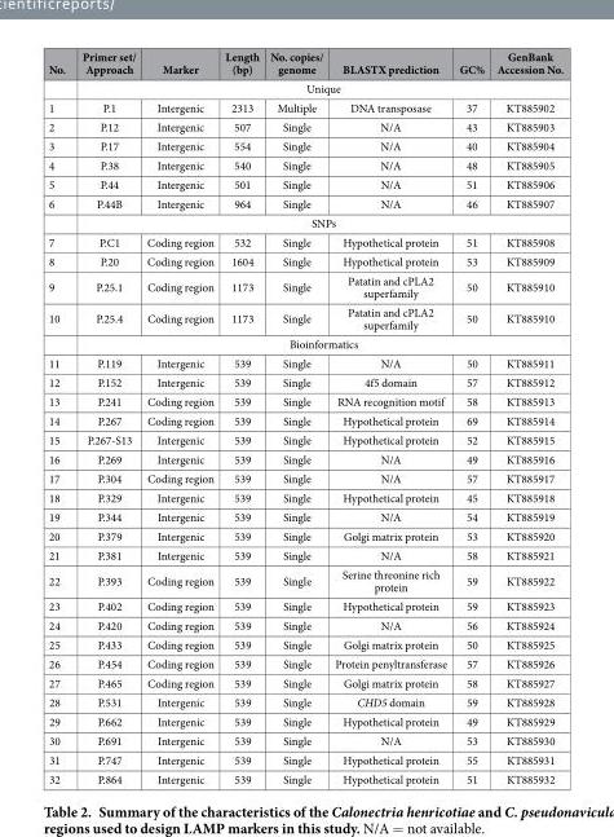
<table><thead><tr><td>No.</td><td>Primer set/ Approach</td><td>Marker</td><td>Length (bp)</td><td>No. copies/ genome</td><td>BLASTX prediction</td><td>GC%</td><td>GenBank Accession No.</td></tr></thead><tbody><tr><td></td><td colspan="7">Unique</td></tr><tr><td>1</td><td>P.1</td><td>Intergenic</td><td>2313</td><td>Multiple</td><td>DNA transposase</td><td>37</td><td>KT885902</td></tr><tr><td>2</td><td>P.12</td><td>Intergenic</td><td>507</td><td>Single</td><td>N/A</td><td>43</td><td>KT885903</td></tr><tr><td>3</td><td>P.17</td><td>Intergenic</td><td>554</td><td>Single</td><td>N/A</td><td>40</td><td>KT885904</td></tr><tr><td>4</td><td>P.38</td><td>Intergenic</td><td>540</td><td>Single</td><td>N/A</td><td>48</td><td>KT885905</td></tr><tr><td>5</td><td>P.44</td><td>Intergenic</td><td>501</td><td>Single</td><td>N/A</td><td>51</td><td>KT885906</td></tr><tr><td rowspan="2">6</td><td>P.44B</td><td>Intergenic</td><td>964</td><td>Single</td><td>N/A</td><td>46</td><td>KT885907</td></tr><tr><td colspan="7">SNPs</td></tr><tr><td>7</td><td>P.C1</td><td>Coding region</td><td>532</td><td>Single</td><td>Hypothetical protein</td><td>51</td><td>KT885908</td></tr><tr><td>8</td><td>P.20</td><td>Coding region</td><td>1604</td><td>Single</td><td>Hypothetical protein</td><td>53</td><td>KT885909</td></tr><tr><td>9</td><td>P.25.1</td><td>Coding region</td><td>1173</td><td>Single</td><td>Patatin and cPLA2 superfamily</td><td>50</td><td>KT885910</td></tr><tr><td rowspan="2">10</td><td>P.25.4</td><td>Coding region</td><td>1173</td><td>Single</td><td>Patatin and cPLA2 superfamily</td><td>50</td><td>KT885910</td></tr><tr><td colspan="7">Bioinformatics</td></tr><tr><td>11</td><td>P.119</td><td>Intergenic</td><td>539</td><td>Single</td><td>N/A</td><td>50</td><td>KT885911</td></tr><tr><td>12</td><td>P.152</td><td>Intergenic</td><td>539</td><td>Single</td><td>4f5 domain</td><td>57</td><td>KT885912</td></tr><tr><td>13</td><td>P.241</td><td>Coding region</td><td>539</td><td>Single</td><td>RNA recognition motif</td><td>58</td><td>KT885913</td></tr><tr><td>14</td><td>P.267</td><td>Coding region</td><td>539</td><td>Single</td><td>Hypothetical protein</td><td>69</td><td>KT885914</td></tr><tr><td>15</td><td>P.267-S13</td><td>Intergenic</td><td>539</td><td>Single</td><td>Hypothetical protein</td><td>52</td><td>KT885915</td></tr><tr><td>16</td><td>P.269</td><td>Intergenic</td><td>539</td><td>Single</td><td>N/A</td><td>49</td><td>KT885916</td></tr><tr><td>17</td><td>P.304</td><td>Coding region</td><td>539</td><td>Single</td><td>N/A</td><td>57</td><td>KT885917</td></tr><tr><td>18</td><td>P.329</td><td>Intergenic</td><td>539</td><td>Single</td><td>Hypothetical protein</td><td>45</td><td>KT885918</td></tr><tr><td>19</td><td>P.344</td><td>Intergenic</td><td>539</td><td>Single</td><td>N/A</td><td>54</td><td>KT885919</td></tr><tr><td>20</td><td>P.379</td><td>Intergenic</td><td>539</td><td>Single</td><td>Golgi matrix protein</td><td>53</td><td>KT885920</td></tr><tr><td>21</td><td>P.381</td><td>Intergenic</td><td>539</td><td>Single</td><td>N/A</td><td>58</td><td>KT885921</td></tr><tr><td>22</td><td>P.393</td><td>Coding region</td><td>539</td><td>Single</td><td>Serine threonine rich protein</td><td>59</td><td>KT885922</td></tr><tr><td>23</td><td>P.402</td><td>Coding region</td><td>539</td><td>Single</td><td>Hypothetical protein</td><td>59</td><td>KT885923</td></tr><tr><td>24</td><td>P.420</td><td>Coding region</td><td>539</td><td>Single</td><td>N/A</td><td>56</td><td>KT885924</td></tr><tr><td>25</td><td>P.433</td><td>Coding region</td><td>539</td><td>Single</td><td>Golgi matrix protein</td><td>50</td><td>KT885925</td></tr><tr><td>26</td><td>P.454</td><td>Coding region</td><td>539</td><td>Single</td><td>Protein penyltransferase</td><td>57</td><td>KT885926</td></tr><tr><td>27</td><td>P.465</td><td>Coding region</td><td>539</td><td>Single</td><td>Golgi matrix protein</td><td>58</td><td>KT885927</td></tr><tr><td>28</td><td>P.531</td><td>Intergenic</td><td>539</td><td>Single</td><td>CHD5 domain</td><td>59</td><td>KT885928</td></tr><tr><td>29</td><td>P.662</td><td>Intergenic</td><td>539</td><td>Single</td><td>Hypothetical protein</td><td>49</td><td>KT885929</td></tr><tr><td>30</td><td>P.691</td><td>Intergenic</td><td>539</td><td>Single</td><td>N/A</td><td>53</td><td>KT885930</td></tr><tr><td>31</td><td>P.747</td><td>Intergenic</td><td>539</td><td>Single</td><td>Hypothetical protein</td><td>55</td><td>KT885931</td></tr><tr><td>32</td><td>P.864</td><td>Intergenic</td><td>539</td><td>Single</td><td>Hypothetical protein</td><td>51</td><td>KT885932</td></tr></tbody></table>